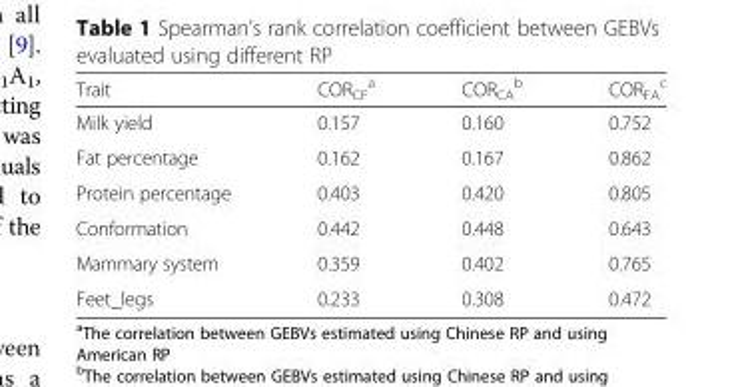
<table><thead><tr><td>Trait</td><td>COR<sub>CF</sub> <sup>a</sup></td><td>COR<sub>CA</sub> <sup>b</sup></td><td>COR<sub>FA</sub> <sup>c</sup></td></tr></thead><tbody><tr><td>Milk yield</td><td>0.157</td><td>0.160</td><td>0.752</td></tr><tr><td>Fat percentage</td><td>0.162</td><td>0.167</td><td>0.862</td></tr><tr><td>Protein percentage</td><td>0.403</td><td>0.420</td><td>0.805</td></tr><tr><td>Conformation</td><td>0.442</td><td>0.448</td><td>0.643</td></tr><tr><td>Mammary system</td><td>0.359</td><td>0.402</td><td>0.765</td></tr><tr><td>Feet_legs</td><td>0.233</td><td>0.308</td><td>0.472</td></tr></tbody></table>